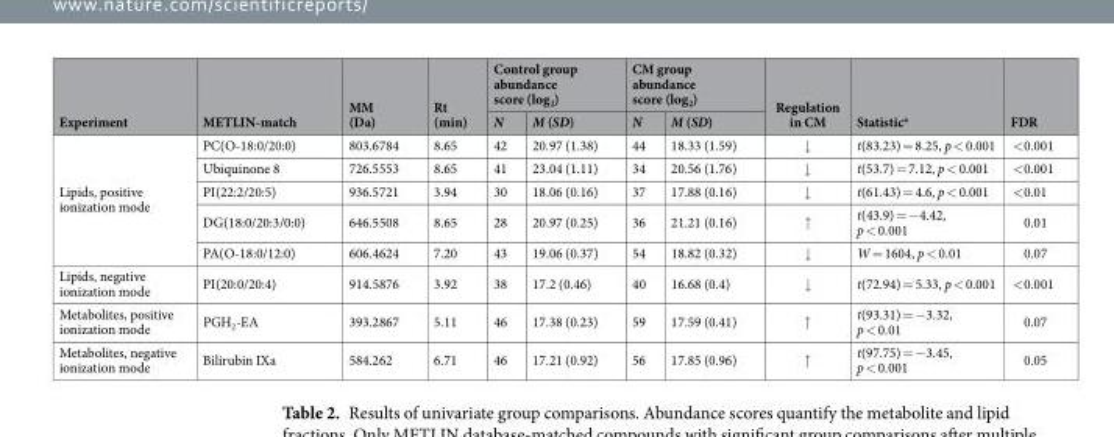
<table><thead><tr><td rowspan="2">Experiment</td><td rowspan="2">METLIN-match</td><td rowspan="2">MM (Da)</td><td rowspan="2">Rt (min)</td><td colspan="2">Control group abundance score (log<sub>2</sub>)</td><td colspan="2">CM group abundance score (log<sub>2</sub>)</td><td rowspan="2">Regulation in CM</td><td rowspan="2">Statistic<sup>a</sup></td><td rowspan="2">FDR</td></tr><tr><td>N</td><td>M (SD)</td><td>N</td><td>M (SD)</td></tr></thead><tbody><tr><td rowspan="5">Lipids, positive ionization mode</td><td>PC(O-18:0/20:0)</td><td>803.6784</td><td>8.65</td><td>42</td><td>20.97 (1.38)</td><td>44</td><td>18.33 (1.59)</td><td>↓</td><td>t(83.23) = 8.25, p &lt; 0.001</td><td>&lt;0.001</td></tr><tr><td>Ubiquinone 8</td><td>726.5553</td><td>8.65</td><td>41</td><td>23.04 (1.11)</td><td>34</td><td>20.56 (1.76)</td><td>↓</td><td>t(53.7) = 7.12, p &lt; 0.001</td><td>&lt;0.001</td></tr><tr><td>PI(22:2/20:5)</td><td>936.5721</td><td>3.94</td><td>30</td><td>18.06 (0.16)</td><td>37</td><td>17.88 (0.16)</td><td>↓</td><td>t(61.43) = 4.6, p &lt; 0.001</td><td>&lt;0.01</td></tr><tr><td>DG(18:0/20:3/0:0)</td><td>646.5508</td><td>8.65</td><td>28</td><td>20.97 (0.25)</td><td>36</td><td>21.21 (0.16)</td><td>↑</td><td>t(43.9) = −4.42, p &lt; 0.001</td><td>0.01</td></tr><tr><td>PA(O-18:0/12:0)</td><td>606.4624</td><td>7.20</td><td>43</td><td>19.06 (0.37)</td><td>54</td><td>18.82 (0.32)</td><td>↓</td><td>W = 1604, p &lt; 0.01</td><td>0.07</td></tr><tr><td>Lipids, negative ionization mode</td><td>PI(20:0/20:4)</td><td>914.5876</td><td>3.92</td><td>38</td><td>17.2 (0.46)</td><td>40</td><td>16.68 (0.4)</td><td>↓</td><td>t(72.94) = 5.33, p &lt; 0.001</td><td>&lt;0.001</td></tr><tr><td>Metabolites, positive ionization mode</td><td>PGH<sub>2</sub>-EA</td><td>393.2867</td><td>5.11</td><td>46</td><td>17.38 (0.23)</td><td>59</td><td>17.59 (0.41)</td><td>↑</td><td>t(93.31) = −3.32, p &lt; 0.01</td><td>0.07</td></tr><tr><td>Metabolites, negative ionization mode</td><td>Bilirubin IXa</td><td>584.262</td><td>6.71</td><td>46</td><td>17.21 (0.92)</td><td>56</td><td>17.85 (0.96)</td><td>↑</td><td>t(97.75) = −3.45, p &lt; 0.001</td><td>0.05</td></tr></tbody></table>